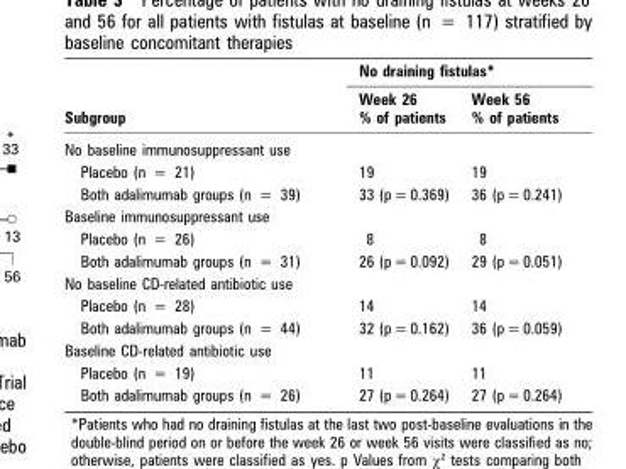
<table><thead><tr><td rowspan="2">Subgroup</td><td colspan="2">No draining fistulas*</td></tr><tr><td>Week 26 % of patients</td><td>Week 56 % of patients</td></tr></thead><tbody><tr><td colspan="3">No baseline immunosuppressant use</td></tr><tr><td>Placebo (n = 21)</td><td>19</td><td>19</td></tr><tr><td>Both adalimumab groups (n = 39)</td><td>33 (p = 0.369)</td><td>36 (p = 0.241)</td></tr><tr><td colspan="3">Baseline immunosuppressant use</td></tr><tr><td>Placebo (n = 26)</td><td>8</td><td>8</td></tr><tr><td>Both adalimumab groups (n = 31)</td><td>26 (p = 0.092)</td><td>29 (p = 0.051)</td></tr><tr><td colspan="3">No baseline CD-related antibiotic use</td></tr><tr><td>Placebo (n = 28)</td><td>14</td><td>14</td></tr><tr><td>Both adalimumab groups (n = 44)</td><td>32 (p = 0.162)</td><td>36 (p = 0.059)</td></tr><tr><td colspan="3">Baseline CD-related antibiotic use</td></tr><tr><td>Placebo (n = 19)</td><td>11</td><td>11</td></tr><tr><td>Both adalimumab groups (n = 26)</td><td>27 (p = 0.264)</td><td>27 (p = 0.264)</td></tr></tbody></table>